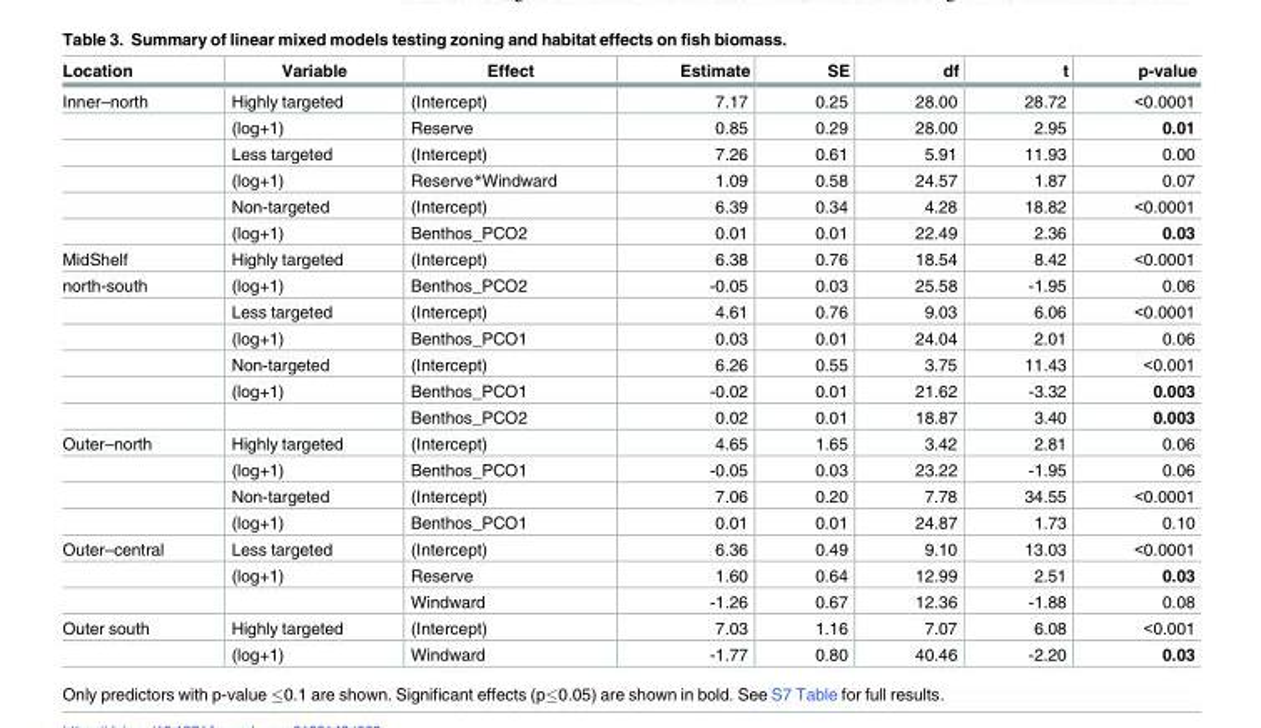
<table><thead><tr><td>Location</td><td>Variable</td><td>Effect</td><td>Estimate</td><td>SE</td><td>df</td><td>t</td><td>p-value</td></tr></thead><tbody><tr><td rowspan="6">Inner–north</td><td>Highly targeted</td><td>(Intercept)</td><td>7.17</td><td>0.25</td><td>28.00</td><td>28.72</td><td>&lt;0.0001</td></tr><tr><td>(log+1)</td><td>Reserve</td><td>0.85</td><td>0.29</td><td>28.00</td><td>2.95</td><td>0.01</td></tr><tr><td>Less targeted</td><td>(Intercept)</td><td>7.26</td><td>0.61</td><td>5.91</td><td>11.93</td><td>0.00</td></tr><tr><td>(log+1)</td><td>Reserve*Windward</td><td>1.09</td><td>0.58</td><td>24.57</td><td>1.87</td><td>0.07</td></tr><tr><td>Non-targeted</td><td>(Intercept)</td><td>6.39</td><td>0.34</td><td>4.28</td><td>18.82</td><td>&lt;0.0001</td></tr><tr><td>(log+1)</td><td>Benthos_PCO2</td><td>0.01</td><td>0.01</td><td>22.49</td><td>2.36</td><td>0.03</td></tr><tr><td>MidShelf</td><td>Highly targeted</td><td>(Intercept)</td><td>6.38</td><td>0.76</td><td>18.54</td><td>8.42</td><td>&lt;0.0001</td></tr><tr><td rowspan="6">north-south</td><td>(log+1)</td><td>Benthos_PCO2</td><td>-0.05</td><td>0.03</td><td>25.58</td><td>-1.95</td><td>0.06</td></tr><tr><td>Less targeted</td><td>(Intercept)</td><td>4.61</td><td>0.76</td><td>9.03</td><td>6.06</td><td>&lt;0.0001</td></tr><tr><td>(log+1)</td><td>Benthos_PCO1</td><td>0.03</td><td>0.01</td><td>24.04</td><td>2.01</td><td>0.06</td></tr><tr><td>Non-targeted</td><td>(Intercept)</td><td>6.26</td><td>0.55</td><td>3.75</td><td>11.43</td><td>&lt;0.001</td></tr><tr><td>(log+1)</td><td>Benthos_PCO1</td><td>-0.02</td><td>0.01</td><td>21.62</td><td>-3.32</td><td>0.003</td></tr><tr><td></td><td>Benthos_PCO2</td><td>0.02</td><td>0.01</td><td>18.87</td><td>3.40</td><td>0.003</td></tr><tr><td rowspan="4">Outer–north</td><td>Highly targeted</td><td>(Intercept)</td><td>4.65</td><td>1.65</td><td>3.42</td><td>2.81</td><td>0.06</td></tr><tr><td>(log+1)</td><td>Benthos_PCO1</td><td>-0.05</td><td>0.03</td><td>23.22</td><td>-1.95</td><td>0.06</td></tr><tr><td>Non-targeted</td><td>(Intercept)</td><td>7.06</td><td>0.20</td><td>7.78</td><td>34.55</td><td>&lt;0.0001</td></tr><tr><td>(log+1)</td><td>Benthos_PCO1</td><td>0.01</td><td>0.01</td><td>24.87</td><td>1.73</td><td>0.10</td></tr><tr><td rowspan="3">Outer–central</td><td>Less targeted</td><td>(Intercept)</td><td>6.36</td><td>0.49</td><td>9.10</td><td>13.03</td><td>&lt;0.0001</td></tr><tr><td>(log+1)</td><td>Reserve</td><td>1.60</td><td>0.64</td><td>12.99</td><td>2.51</td><td>0.03</td></tr><tr><td></td><td>Windward</td><td>-1.26</td><td>0.67</td><td>12.36</td><td>-1.88</td><td>0.08</td></tr><tr><td rowspan="2">Outer south</td><td>Highly targeted</td><td>(Intercept)</td><td>7.03</td><td>1.16</td><td>7.07</td><td>6.08</td><td>&lt;0.001</td></tr><tr><td>(log+1)</td><td>Windward</td><td>-1.77</td><td>0.80</td><td>40.46</td><td>-2.20</td><td>0.03</td></tr></tbody></table>